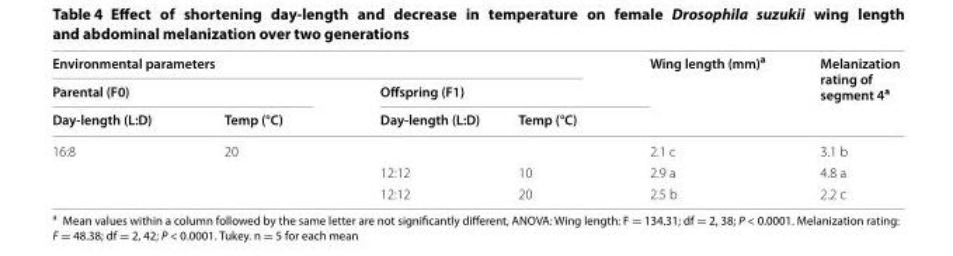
<table><thead><tr><td colspan="4">Environmental parameters</td><td rowspan="3">Wing length (mm)<sup>a</sup></td><td rowspan="3">Melanization rating of segment 4<sup>a</sup></td></tr><tr><td colspan="2">Parental (F0)</td><td colspan="2">Offspring (F1)</td></tr><tr><td>Day-length (L:D)</td><td>Temp (°C)</td><td>Day-length (L:D)</td><td>Temp (°C)</td></tr></thead><tbody><tr><td rowspan="3">16:8</td><td>20</td><td></td><td></td><td>2.1 c</td><td>3.1 b</td></tr><tr><td></td><td>12:12</td><td>10</td><td>2.9 a</td><td>4.8 a</td></tr><tr><td></td><td>12:12</td><td>20</td><td>2.5 b</td><td>2.2 c</td></tr></tbody></table>